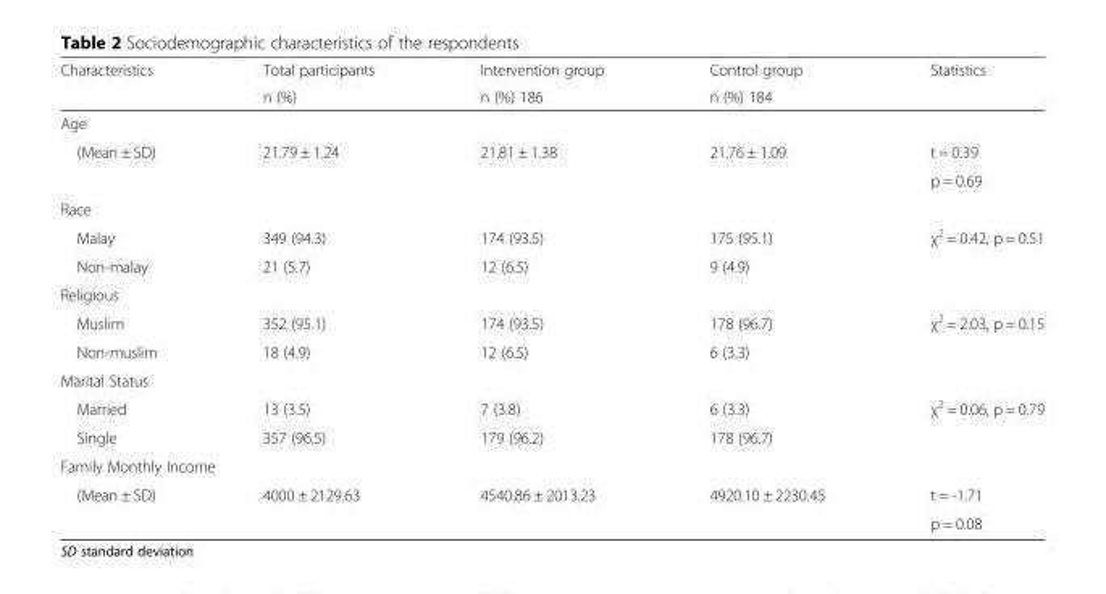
<table><thead><tr><td rowspan="2">Characteristics</td><td rowspan="2">Total participants n (%)</td><td rowspan="2">Intervention group n (%) 186</td><td rowspan="2">Control group n (%) 184</td><td rowspan="2">Statistics</td></tr><tr></tr></thead><tbody><tr><td colspan="5">Age</td></tr><tr><td rowspan="2">(Mean ± SD)</td><td rowspan="2">21.79 ± 1.24</td><td rowspan="2">21.81 ± 1.38</td><td rowspan="2">21.76 ± 1.09</td><td>t = 0.39</td></tr><tr><td>p = 0.69</td></tr><tr><td colspan="5">Race</td></tr><tr><td>Malay</td><td>349 (94.3)</td><td>174 (93.5)</td><td>175 (95.1)</td><td rowspan="2">χ<sup>2</sup> = 0.42, p = 0.51</td></tr><tr><td>Non-malay</td><td>21 (5.7)</td><td>12 (6.5)</td><td>9 (4.9)</td></tr><tr><td colspan="5">Religious</td></tr><tr><td>Muslim</td><td>352 (95.1)</td><td>174 (93.5)</td><td>178 (96.7)</td><td rowspan="2">χ<sup>2</sup> = 2.03, p = 0.15</td></tr><tr><td>Non-muslim</td><td>18 (4.9)</td><td>12 (6.5)</td><td>6 (3.3)</td></tr><tr><td colspan="5">Marital Status</td></tr><tr><td>Married</td><td>13 (3.5)</td><td>7 (3.8)</td><td>6 (3.3)</td><td rowspan="2">χ<sup>2</sup> = 0.06, p = 0.79</td></tr><tr><td>Single</td><td>357 (96.5)</td><td>179 (96.2)</td><td>178 (96.7)</td></tr><tr><td colspan="5">Family Monthly Income</td></tr><tr><td rowspan="2">(Mean ± SD)</td><td rowspan="2">4000 ± 2129.63</td><td rowspan="2">4540.86 ± 2013.23</td><td rowspan="2">4920.10 ± 2230.45</td><td>t = -1.71</td></tr><tr><td>p = 0.08</td></tr></tbody></table>